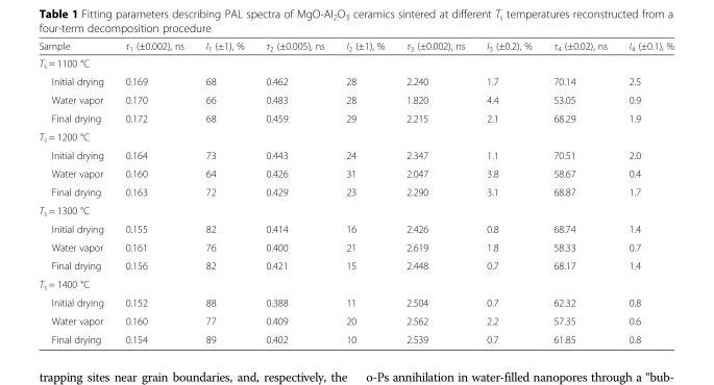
<table><thead><tr><td>Sample</td><td>τ<sub>1</sub> (±0.002), ns</td><td>I<sub>1</sub> (±1), %</td><td>τ<sub>2</sub> (±0.005), ns</td><td>I<sub>2</sub> (±1), %</td><td>τ<sub>3</sub> (±0.002), ns</td><td>I<sub>3</sub> (±0.2), %</td><td>τ<sub>4</sub> (±0.02), ns</td><td>I<sub>4</sub> (±0.1), %</td></tr></thead><tbody><tr><td colspan="9">T<sub>s</sub> = 1100 °C</td></tr><tr><td>Initial drying</td><td>0.169</td><td>68</td><td>0.462</td><td>28</td><td>2.240</td><td>1.7</td><td>70.14</td><td>2.5</td></tr><tr><td>Water vapor</td><td>0.170</td><td>66</td><td>0.483</td><td>28</td><td>1.820</td><td>4.4</td><td>53.05</td><td>0.9</td></tr><tr><td>Final drying</td><td>0.172</td><td>68</td><td>0.459</td><td>29</td><td>2.215</td><td>2.1</td><td>68.29</td><td>1.9</td></tr><tr><td colspan="9">T<sub>s</sub> = 1200 °C</td></tr><tr><td>Initial drying</td><td>0.164</td><td>73</td><td>0.443</td><td>24</td><td>2.347</td><td>1.1</td><td>70.51</td><td>2.0</td></tr><tr><td>Water vapor</td><td>0.160</td><td>64</td><td>0.426</td><td>31</td><td>2.047</td><td>3.8</td><td>58.67</td><td>0.4</td></tr><tr><td>Final drying</td><td>0.163</td><td>72</td><td>0.429</td><td>23</td><td>2.290</td><td>3.1</td><td>68.87</td><td>1.7</td></tr><tr><td colspan="9">T<sub>s</sub> = 1300 °C</td></tr><tr><td>Initial drying</td><td>0.155</td><td>82</td><td>0.414</td><td>16</td><td>2.426</td><td>0.8</td><td>68.74</td><td>1.4</td></tr><tr><td>Water vapor</td><td>0.161</td><td>76</td><td>0.400</td><td>21</td><td>2.619</td><td>1.8</td><td>58.33</td><td>0.7</td></tr><tr><td>Final drying</td><td>0.156</td><td>82</td><td>0.421</td><td>15</td><td>2.448</td><td>0.7</td><td>68.17</td><td>1.4</td></tr><tr><td colspan="9">T<sub>s</sub> = 1400 °C</td></tr><tr><td>Initial drying</td><td>0.152</td><td>88</td><td>0.388</td><td>11</td><td>2.504</td><td>0.7</td><td>62.32</td><td>0.8</td></tr><tr><td>Water vapor</td><td>0.160</td><td>77</td><td>0.409</td><td>20</td><td>2.562</td><td>2.2</td><td>57.35</td><td>0.6</td></tr><tr><td>Final drying</td><td>0.154</td><td>89</td><td>0.402</td><td>10</td><td>2.539</td><td>0.7</td><td>61.85</td><td>0.8</td></tr></tbody></table>